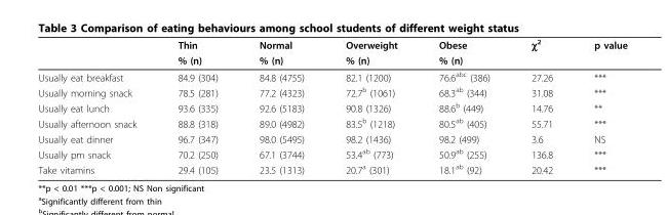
<table><thead><tr><td rowspan="2"></td><td rowspan="2">Thin % (n)</td><td rowspan="2">Normal % (n)</td><td rowspan="2">Overweight % (n)</td><td rowspan="2">Obese % (n)</td><td rowspan="2">χ<sup>2</sup></td><td rowspan="2">p value</td></tr><tr></tr></thead><tbody><tr><td>Usually eat breakfast</td><td>84.9 (304)</td><td>84.8 (4755)</td><td>82.1 (1200)</td><td>76.6<sup>abc</sup> (386)</td><td>27.26</td><td>***</td></tr><tr><td>Usually morning snack</td><td>78.5 (281)</td><td>77.2 (4323)</td><td>72.7<sup>b</sup> (1061)</td><td>68.3<sup>ab</sup> (344)</td><td>31.08</td><td>***</td></tr><tr><td>Usually eat lunch</td><td>93.6 (335)</td><td>92.6 (5183)</td><td>90.8 (1326)</td><td>88.6<sup>b</sup> (449)</td><td>14.76</td><td>**</td></tr><tr><td>Usually afternoon snack</td><td>88.8 (318)</td><td>89.0 (4982)</td><td>83.5<sup>b</sup> (1218)</td><td>80.5<sup>ab</sup> (405)</td><td>55.71</td><td>***</td></tr><tr><td>Usually eat dinner</td><td>96.7 (347)</td><td>98.0 (5495)</td><td>98.2 (1436)</td><td>98.2 (499)</td><td>3.6</td><td>NS</td></tr><tr><td>Usually pm snack</td><td>70.2 (250)</td><td>67.1 (3744)</td><td>53.4<sup>ab</sup> (773)</td><td>50.9<sup>ab</sup> (255)</td><td>136.8</td><td>***</td></tr><tr><td>Take vitamins</td><td>29.4 (105)</td><td>23.5 (1313)</td><td>20.7<sup>a</sup> (301)</td><td>18.1<sup>ab</sup> (92)</td><td>20.42</td><td>***</td></tr></tbody></table>